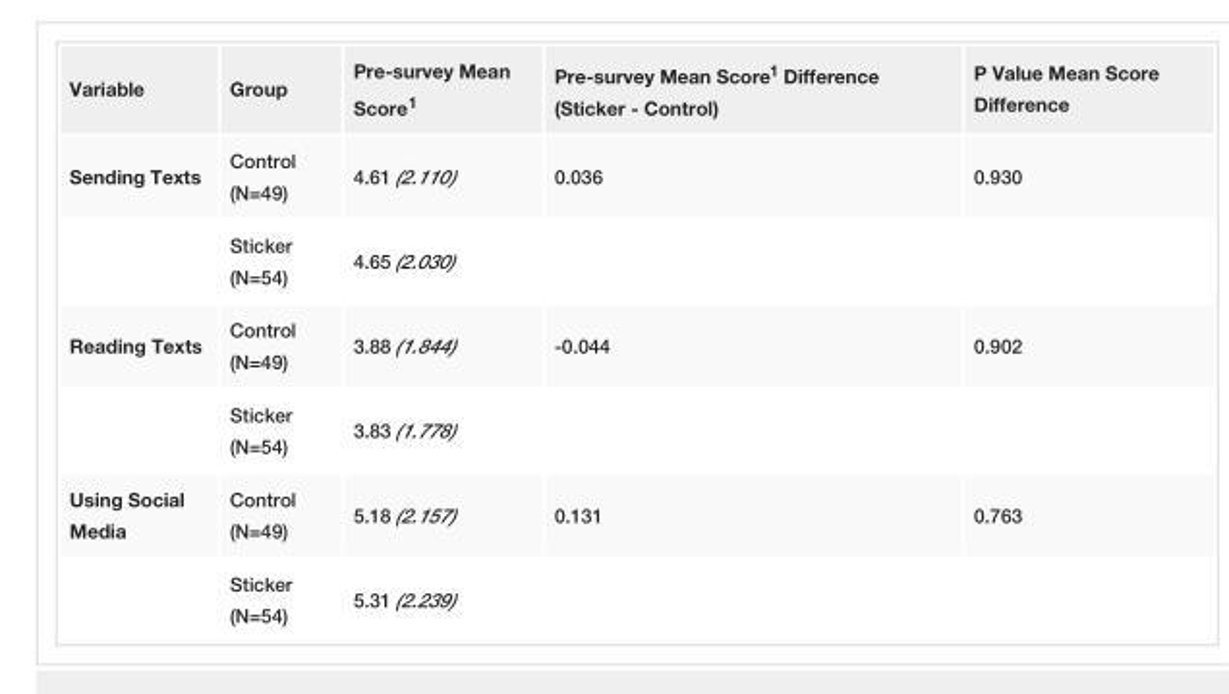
<table><tbody><tr><td>Variable</td><td>Group</td><td>Pre-survey Mean Score<sup>1</sup></td><td>Pre-survey Mean Score<sup>1</sup> Difference (Sticker - Control)</td><td>P Value Mean Score Difference</td></tr><tr><td rowspan="2">Sending Texts</td><td>Control (N=49)</td><td>4.61 (2.110)</td><td>0.036</td><td>0.930</td></tr><tr><td>Sticker (N=54)</td><td>4.65 (2.030)</td><td></td><td></td></tr><tr><td rowspan="2">Reading Texts</td><td>Control (N=49)</td><td>3.88 (1.844)</td><td>-0.044</td><td>0.902</td></tr><tr><td>Sticker (N=54)</td><td>3.83 (1.778)</td><td></td><td></td></tr><tr><td rowspan="2">Using Social Media</td><td>Control (N=49)</td><td>5.18 (2.157)</td><td>0.131</td><td>0.763</td></tr><tr><td>Sticker (N=54)</td><td>5.31 (2.239)</td><td></td><td></td></tr></tbody></table>